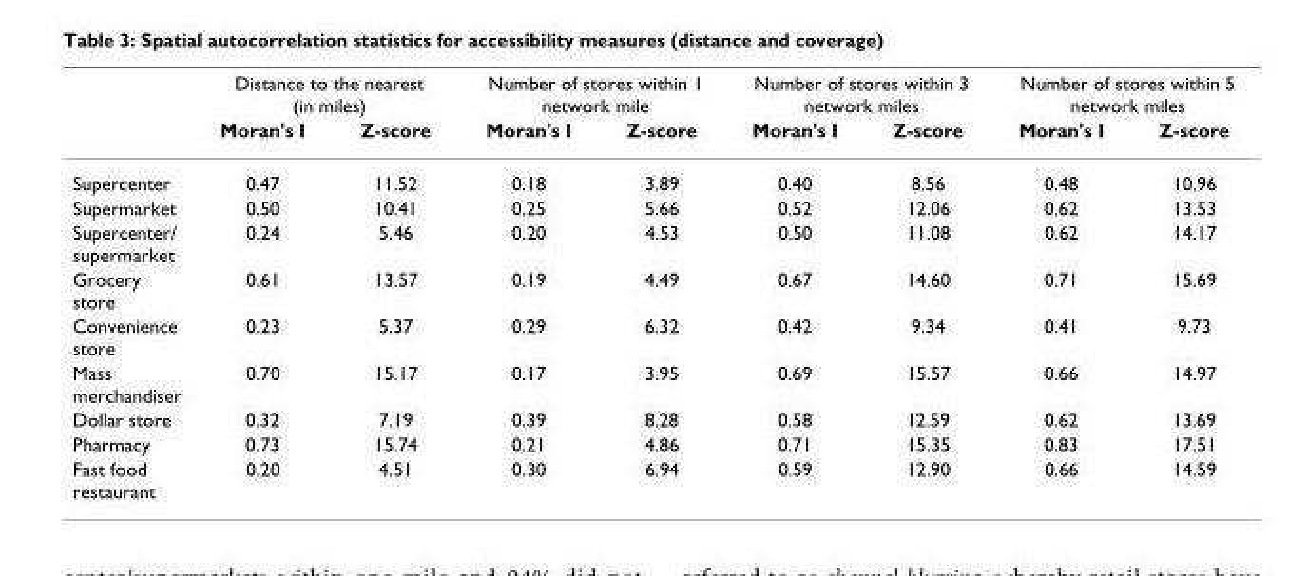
<table><thead><tr><td rowspan="2"></td><td colspan="2">Distance to the nearest (in miles)</td><td colspan="2">Number of stores within 1 network mile</td><td colspan="2">Number of stores within 3 network miles</td><td colspan="2">Number of stores within 5 network miles</td></tr><tr><td>Moran&#x27;s I</td><td>Z-score</td><td>Moran&#x27;s I</td><td>Z-score</td><td>Moran&#x27;s I</td><td>Z-score</td><td>Moran&#x27;s I</td><td>Z-score</td></tr></thead><tbody><tr><td>Supercenter</td><td>0.47</td><td>11.52</td><td>0.18</td><td>3.89</td><td>0.40</td><td>8.56</td><td>0.48</td><td>10.96</td></tr><tr><td>Supermarket</td><td>0.50</td><td>10.41</td><td>0.25</td><td>5.66</td><td>0.52</td><td>12.06</td><td>0.62</td><td>13.53</td></tr><tr><td>Supercenter/ supermarket</td><td>0.24</td><td>5.46</td><td>0.20</td><td>4.53</td><td>0.50</td><td>11.08</td><td>0.62</td><td>14.17</td></tr><tr><td>Grocery store</td><td>0.61</td><td>13.57</td><td>0.19</td><td>4.49</td><td>0.67</td><td>14.60</td><td>0.71</td><td>15.69</td></tr><tr><td>Convenience store</td><td>0.23</td><td>5.37</td><td>0.29</td><td>6.32</td><td>0.42</td><td>9.34</td><td>0.41</td><td>9.73</td></tr><tr><td>Mass merchandiser</td><td>0.70</td><td>15.17</td><td>0.17</td><td>3.95</td><td>0.69</td><td>15.57</td><td>0.66</td><td>14.97</td></tr><tr><td>Dollar store</td><td>0.32</td><td>7.19</td><td>0.39</td><td>8.28</td><td>0.58</td><td>12.59</td><td>0.62</td><td>13.69</td></tr><tr><td>Pharmacy</td><td>0.73</td><td>15.74</td><td>0.21</td><td>4.86</td><td>0.71</td><td>15.35</td><td>0.83</td><td>17.51</td></tr><tr><td>Fast food restaurant</td><td>0.20</td><td>4.51</td><td>0.30</td><td>6.94</td><td>0.59</td><td>12.90</td><td>0.66</td><td>14.59</td></tr></tbody></table>